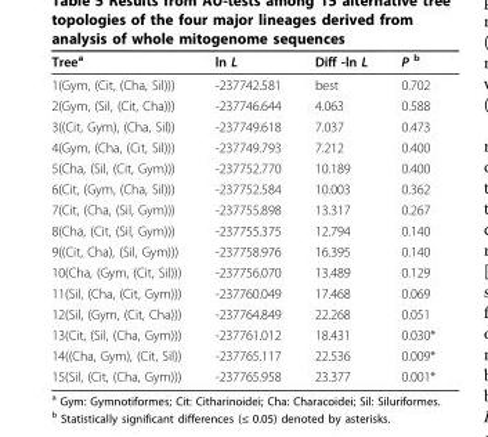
<table><thead><tr><td>Tree<sup>a</sup></td><td>ln L</td><td>Diff -ln L</td><td>P <sup>b</sup></td></tr></thead><tbody><tr><td>1(Gym, (Cit, (Cha, Sil)))</td><td>-237742.581</td><td>best</td><td>0.702</td></tr><tr><td>2(Gym, (Sil, (Cit, Cha)))</td><td>-237746.644</td><td>4.063</td><td>0.588</td></tr><tr><td>3((Cit, Gym), (Cha, Sil))</td><td>-237749.618</td><td>7.037</td><td>0.473</td></tr><tr><td>4(Gym, (Cha, (Cit, Sil)))</td><td>-237749.793</td><td>7.212</td><td>0.400</td></tr><tr><td>5(Cha, (Sil, (Cit, Gym)))</td><td>-237752.770</td><td>10.189</td><td>0.400</td></tr><tr><td>6(Cit, (Gym, (Cha, Sil)))</td><td>-237752.584</td><td>10.003</td><td>0.362</td></tr><tr><td>7(Cit, (Cha, (Sil, Gym)))</td><td>-237755.898</td><td>13.317</td><td>0.267</td></tr><tr><td>8(Cha, (Cit, (Sil, Gym)))</td><td>-237755.375</td><td>12.794</td><td>0.140</td></tr><tr><td>9((Cit, Cha), (Sil, Gym)))</td><td>-237758.976</td><td>16.395</td><td>0.140</td></tr><tr><td>10(Cha, (Gym, (Cit, Sil)))</td><td>-237756.070</td><td>13.489</td><td>0.129</td></tr><tr><td>11(Sil, (Cha, (Cit, Gym)))</td><td>-237760.049</td><td>17.468</td><td>0.069</td></tr><tr><td>12(Sil, (Gym, (Cit, Cha)))</td><td>-237764.849</td><td>22.268</td><td>0.051</td></tr><tr><td>13(Cit, (Sil, (Cha, Gym)))</td><td>-237761.012</td><td>18.431</td><td>0.030*</td></tr><tr><td>14((Cha, Gym), (Cit, Sil))</td><td>-237765.117</td><td>22.536</td><td>0.009*</td></tr><tr><td>15(Sil, (Cit, (Cha, Gym)))</td><td>-237765.958</td><td>23.377</td><td>0.001*</td></tr></tbody></table>